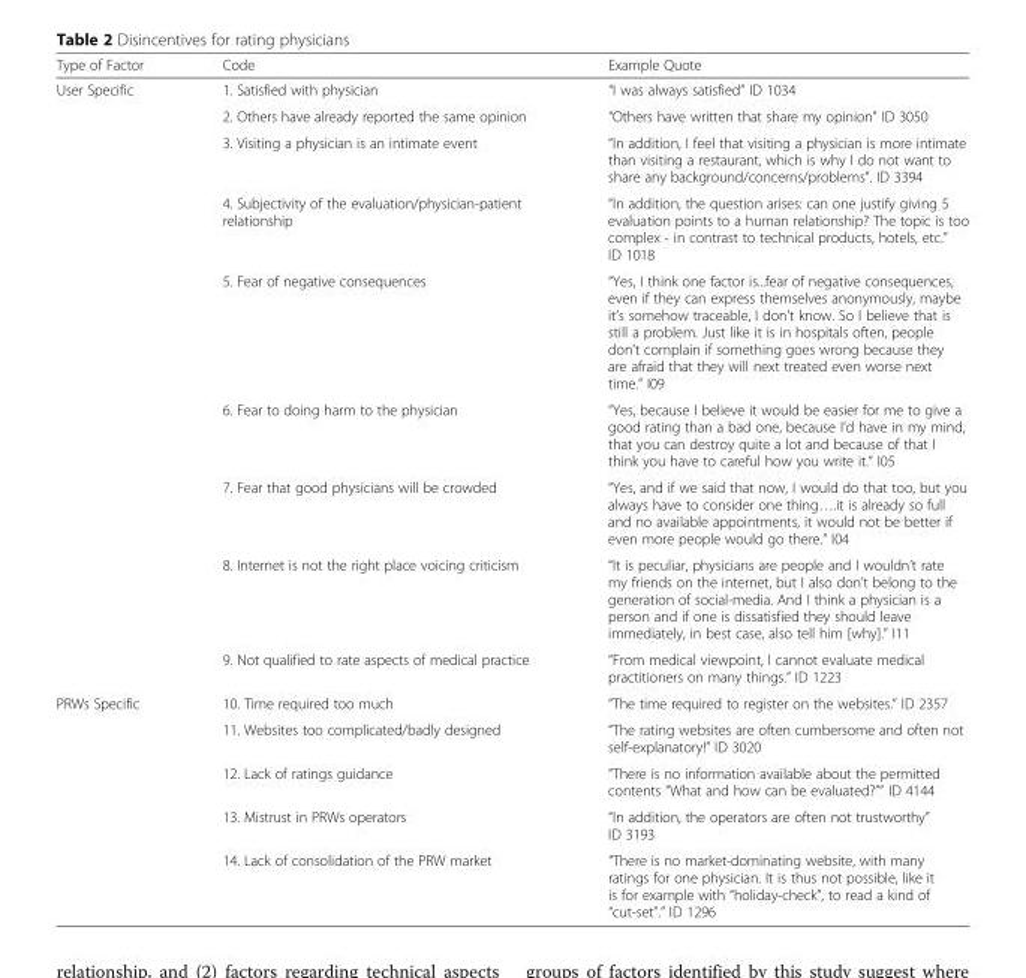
<table><thead><tr><td>Type of Factor</td><td>Code</td><td>Example Quote</td></tr></thead><tbody><tr><td rowspan="9">User Specific</td><td>1. Satisfied with physician</td><td>“I was always satisfied” ID 1034</td></tr><tr><td>2. Others have already reported the same opinion</td><td>“Others have written that share my opinion” ID 3050</td></tr><tr><td>3. Visiting a physician is an intimate event</td><td>“In addition, I feel that visiting a physician is more intimate than visiting a restaurant, which is why I do not want to share any background/concerns/problems”. ID 3394</td></tr><tr><td>4. Subjectivity of the evaluation/physician-patient relationship</td><td>“In addition, the question arises: can one justify giving 5 evaluation points to a human relationship? The topic is too complex - in contrast to technical products, hotels, etc.” ID 1018</td></tr><tr><td>5. Fear of negative consequences</td><td>“Yes, I think one factor is...fear of negative consequences, even if they can express themselves anonymously, maybe it’s somehow traceable, I don’t know. So I believe that is still a problem. Just like it is in hospitals often, people don’t complain if something goes wrong because they are afraid that they will next treated even worse next time.” I09</td></tr><tr><td>6. Fear to doing harm to the physician</td><td>“Yes, because I believe it would be easier for me to give a good rating than a bad one, because I’d have in my mind, that you can destroy quite a lot and because of that I think you have to careful how you write it.” I05</td></tr><tr><td>7. Fear that good physicians will be crowded</td><td>“Yes, and if we said that now, I would do that too, but you always have to consider one thing….it is already so full and no available appointments, it would not be better if even more people would go there.” I04</td></tr><tr><td>8. Internet is not the right place voicing criticism</td><td>“It is peculiar, physicians are people and I wouldn’t rate my friends on the internet, but I also don’t belong to the generation of social-media. And I think a physician is a person and if one is dissatisfied they should leave immediately, in best case, also tell him [why].” I11</td></tr><tr><td>9. Not qualified to rate aspects of medical practice</td><td>“From medical viewpoint, I cannot evaluate medical practitioners on many things.” ID 1223</td></tr><tr><td rowspan="5">PRWs Specific</td><td>10. Time required too much</td><td>“The time required to register on the websites.” ID 2357</td></tr><tr><td>11. Websites too complicated/badly designed</td><td>“The rating websites are often cumbersome and often not self-explanatory!” ID 3020</td></tr><tr><td>12. Lack of ratings guidance</td><td>“There is no information available about the permitted contents “What and how can be evaluated?”” ID 4144</td></tr><tr><td>13. Mistrust in PRWs operators</td><td>“In addition, the operators are often not trustworthy” ID 3193</td></tr><tr><td>14. Lack of consolidation of the PRW market</td><td>“There is no market-dominating website, with many ratings for one physician. It is thus not possible, like it is for example with “holiday-check”, to read a kind of “cut-set”.” ID 1296</td></tr></tbody></table>